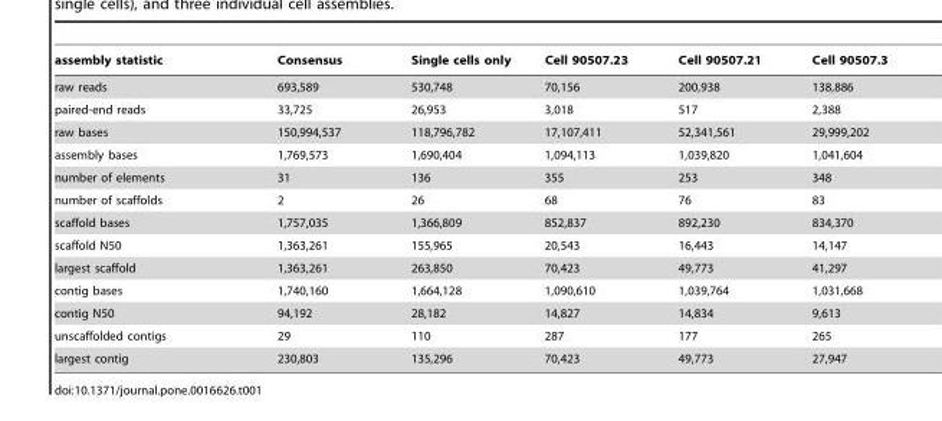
<table><thead><tr><td>assembly statistic</td><td>Consensus</td><td>Single cells only</td><td>Cell 90507.23</td><td>Cell 90507.21</td><td>Cell 90507.3</td></tr></thead><tbody><tr><td>raw reads</td><td>693,589</td><td>530,748</td><td>70,156</td><td>200,938</td><td>138,886</td></tr><tr><td>paired-end reads</td><td>33,725</td><td>26,953</td><td>3,018</td><td>517</td><td>2,388</td></tr><tr><td>raw bases</td><td>150,994,537</td><td>118,796,782</td><td>17,107,411</td><td>52,341,561</td><td>29,999,202</td></tr><tr><td>assembly bases</td><td>1,769,573</td><td>1,690,404</td><td>1,094,113</td><td>1,039,820</td><td>1,041,604</td></tr><tr><td>number of elements</td><td>31</td><td>136</td><td>355</td><td>253</td><td>348</td></tr><tr><td>number of scaffolds</td><td>2</td><td>26</td><td>68</td><td>76</td><td>83</td></tr><tr><td>scaffold bases</td><td>1,757,035</td><td>1,366,809</td><td>852,837</td><td>892,230</td><td>834,370</td></tr><tr><td>scaffold N50</td><td>1,363,261</td><td>155,965</td><td>20,543</td><td>16,443</td><td>14,147</td></tr><tr><td>largest scaffold</td><td>1,363,261</td><td>263,850</td><td>70,423</td><td>49,773</td><td>41,297</td></tr><tr><td>contig bases</td><td>1,740,160</td><td>1,664,128</td><td>1,090,610</td><td>1,039,764</td><td>1,031,668</td></tr><tr><td>contig N50</td><td>94,192</td><td>28,182</td><td>14,827</td><td>14,834</td><td>9,613</td></tr><tr><td>unscaffolded contigs</td><td>29</td><td>110</td><td>287</td><td>177</td><td>265</td></tr><tr><td>largest contig</td><td>230,803</td><td>135,296</td><td>70,423</td><td>49,773</td><td>27,947</td></tr></tbody></table>